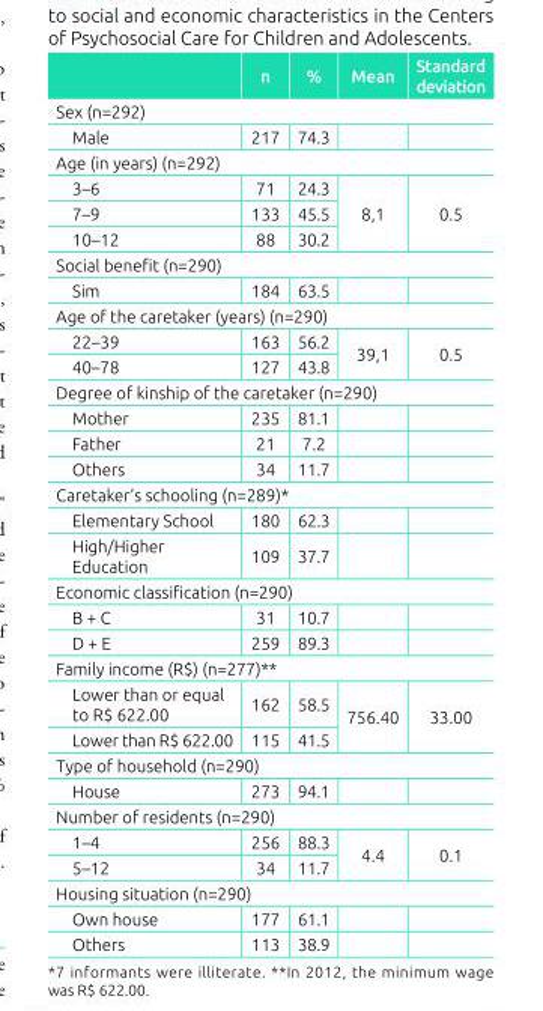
<table><thead><tr><td></td><td>n</td><td>%</td><td>Mean</td><td>Standard deviation</td></tr></thead><tbody><tr><td colspan="5">Sex (n=292)</td></tr><tr><td>Male</td><td>217</td><td>74.3</td><td></td><td></td></tr><tr><td colspan="5">Age (in years) (n=292)</td></tr><tr><td>3–6</td><td>71</td><td>24.3</td><td rowspan="3">8,1</td><td rowspan="3">0.5</td></tr><tr><td>7–9</td><td>133</td><td>45.5</td></tr><tr><td>10–12</td><td>88</td><td>30.2</td></tr><tr><td colspan="5">Social benefit (n=290)</td></tr><tr><td>Sim</td><td>184</td><td>63.5</td><td></td><td></td></tr><tr><td colspan="5">Age of the caretaker (years) (n=290)</td></tr><tr><td>22–39</td><td>163</td><td>56.2</td><td rowspan="2">39,1</td><td rowspan="2">0.5</td></tr><tr><td>40–78</td><td>127</td><td>43.8</td></tr><tr><td colspan="5">Degree of kinship of the caretaker (n=290)</td></tr><tr><td>Mother</td><td>235</td><td>81.1</td><td></td><td></td></tr><tr><td>Father</td><td>21</td><td>7.2</td><td></td><td></td></tr><tr><td>Others</td><td>34</td><td>11.7</td><td></td><td></td></tr><tr><td colspan="5">Caretaker’s schooling (n=289)*</td></tr><tr><td>Elementary School</td><td>180</td><td>62.3</td><td></td><td></td></tr><tr><td>High/Higher Education</td><td>109</td><td>37.7</td><td></td><td></td></tr><tr><td colspan="5">Economic classification (n=290)</td></tr><tr><td>B + C</td><td>31</td><td>10.7</td><td></td><td></td></tr><tr><td>D + E</td><td>259</td><td>89.3</td><td></td><td></td></tr><tr><td colspan="5">Family income (R$) (n=277)**</td></tr><tr><td>Lower than or equal to R$ 622.00</td><td>162</td><td>58.5</td><td rowspan="2">756.40</td><td rowspan="2">33.00</td></tr><tr><td>Lower than R$ 622.00</td><td>115</td><td>41.5</td></tr><tr><td colspan="5">Type of household (n=290)</td></tr><tr><td>House</td><td>273</td><td>94.1</td><td></td><td></td></tr><tr><td colspan="5">Number of residents (n=290)</td></tr><tr><td>1–4</td><td>256</td><td>88.3</td><td rowspan="2">4.4</td><td rowspan="2">0.1</td></tr><tr><td>5–12</td><td>34</td><td>11.7</td></tr><tr><td colspan="5">Housing situation (n=290)</td></tr><tr><td>Own house</td><td>177</td><td>61.1</td><td></td><td></td></tr><tr><td>Others</td><td>113</td><td>38.9</td><td></td><td></td></tr></tbody></table>